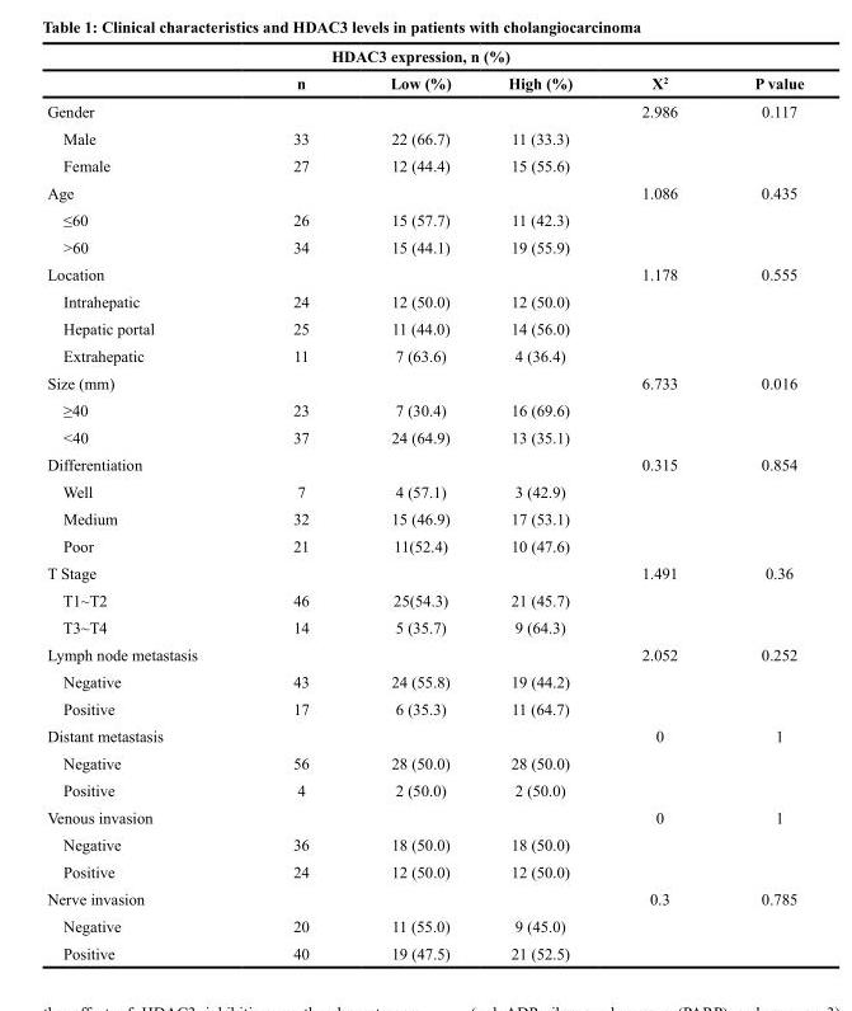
<table><thead><tr><td rowspan="2"></td><td colspan="3">HDAC3 expression, n (%)</td><td rowspan="2">X<sup>2</sup></td><td rowspan="2">P value</td></tr><tr><td>n</td><td>Low (%)</td><td>High (%)</td></tr></thead><tbody><tr><td>Gender</td><td></td><td></td><td></td><td>2.986</td><td>0.117</td></tr><tr><td>Male</td><td>33</td><td>22 (66.7)</td><td>11 (33.3)</td><td></td><td></td></tr><tr><td>Female</td><td>27</td><td>12 (44.4)</td><td>15 (55.6)</td><td></td><td></td></tr><tr><td>Age</td><td></td><td></td><td></td><td>1.086</td><td>0.435</td></tr><tr><td>≤60</td><td>26</td><td>15 (57.7)</td><td>11 (42.3)</td><td></td><td></td></tr><tr><td>&gt;60</td><td>34</td><td>15 (44.1)</td><td>19 (55.9)</td><td></td><td></td></tr><tr><td>Location</td><td></td><td></td><td></td><td>1.178</td><td>0.555</td></tr><tr><td>Intrahepatic</td><td>24</td><td>12 (50.0)</td><td>12 (50.0)</td><td></td><td></td></tr><tr><td>Hepatic portal</td><td>25</td><td>11 (44.0)</td><td>14 (56.0)</td><td></td><td></td></tr><tr><td>Extrahepatic</td><td>11</td><td>7 (63.6)</td><td>4 (36.4)</td><td></td><td></td></tr><tr><td>Size (mm)</td><td></td><td></td><td></td><td>6.733</td><td>0.016</td></tr><tr><td>≥40</td><td>23</td><td>7 (30.4)</td><td>16 (69.6)</td><td></td><td></td></tr><tr><td>&lt;40</td><td>37</td><td>24 (64.9)</td><td>13 (35.1)</td><td></td><td></td></tr><tr><td>Differentiation</td><td></td><td></td><td></td><td>0.315</td><td>0.854</td></tr><tr><td>Well</td><td>7</td><td>4 (57.1)</td><td>3 (42.9)</td><td></td><td></td></tr><tr><td>Medium</td><td>32</td><td>15 (46.9)</td><td>17 (53.1)</td><td></td><td></td></tr><tr><td>Poor</td><td>21</td><td>11(52.4)</td><td>10 (47.6)</td><td></td><td></td></tr><tr><td>T Stage</td><td></td><td></td><td></td><td>1.491</td><td>0.36</td></tr><tr><td>T1~T2</td><td>46</td><td>25(54.3)</td><td>21 (45.7)</td><td></td><td></td></tr><tr><td>T3~T4</td><td>14</td><td>5 (35.7)</td><td>9 (64.3)</td><td></td><td></td></tr><tr><td>Lymph node metastasis</td><td></td><td></td><td></td><td>2.052</td><td>0.252</td></tr><tr><td>Negative</td><td>43</td><td>24 (55.8)</td><td>19 (44.2)</td><td></td><td></td></tr><tr><td>Positive</td><td>17</td><td>6 (35.3)</td><td>11 (64.7)</td><td></td><td></td></tr><tr><td>Distant metastasis</td><td></td><td></td><td></td><td>0</td><td>1</td></tr><tr><td>Negative</td><td>56</td><td>28 (50.0)</td><td>28 (50.0)</td><td></td><td></td></tr><tr><td>Positive</td><td>4</td><td>2 (50.0)</td><td>2 (50.0)</td><td></td><td></td></tr><tr><td>Venous invasion</td><td></td><td></td><td></td><td>0</td><td>1</td></tr><tr><td>Negative</td><td>36</td><td>18 (50.0)</td><td>18 (50.0)</td><td></td><td></td></tr><tr><td>Positive</td><td>24</td><td>12 (50.0)</td><td>12 (50.0)</td><td></td><td></td></tr><tr><td>Nerve invasion</td><td></td><td></td><td></td><td>0.3</td><td>0.785</td></tr><tr><td>Negative</td><td>20</td><td>11 (55.0)</td><td>9 (45.0)</td><td></td><td></td></tr><tr><td>Positive</td><td>40</td><td>19 (47.5)</td><td>21 (52.5)</td><td></td><td></td></tr></tbody></table>